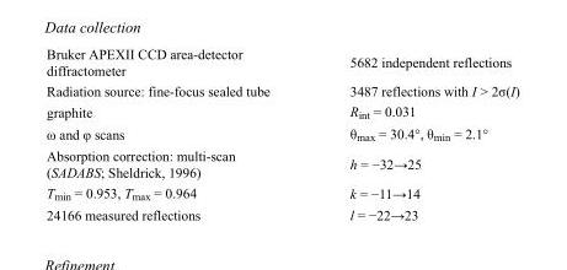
<table><tbody><tr><td>Bruker APEXII CCD area-detector diffractometer</td><td>5682 independent reflections</td></tr><tr><td>Radiation source: fine-focus sealed tube</td><td>3487 reflections with I &gt; 2σ(I)</td></tr><tr><td>graphite</td><td>R<sub>int</sub> = 0.031</td></tr><tr><td>ω and φ scans</td><td>θ<sub>max</sub> = 30.4°, θ<sub>min</sub> = 2.1°</td></tr><tr><td>Absorption correction: multi-scan (SADABS; Sheldrick, 1996)</td><td>h = −32→25</td></tr><tr><td>T<sub>min</sub> = 0.953, T<sub>max</sub> = 0.964</td><td>k = −11→14</td></tr><tr><td>24166 measured reflections</td><td>l = −22→23</td></tr></tbody></table>